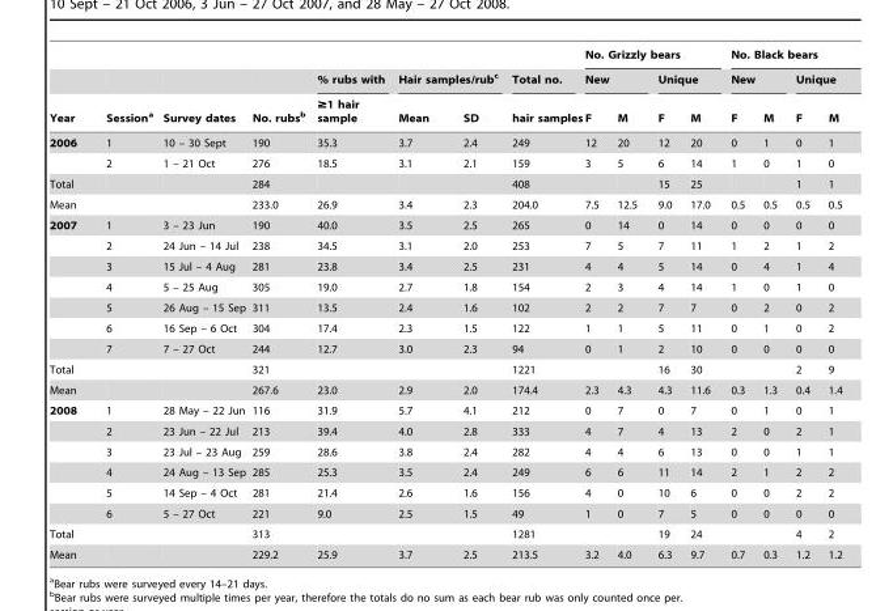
<table><thead><tr><td rowspan="3">Year</td><td rowspan="3">Session<sup>a</sup></td><td rowspan="3">Survey dates</td><td rowspan="3">No. rubs<sup>b</sup></td><td rowspan="3">% rubs with ≥1 hair sample</td><td></td><td></td><td rowspan="3">Total no. hair samples</td><td colspan="4">No. Grizzly bears</td><td colspan="4">No. Black bears</td></tr><tr><td colspan="2">Hair samples/rub<sup>c</sup></td><td colspan="2">New</td><td colspan="2">Unique</td><td colspan="2">New</td><td colspan="2">Unique</td></tr><tr><td>Mean</td><td>SD</td><td>F</td><td>M</td><td>F</td><td>M</td><td>F</td><td>M</td><td>F</td><td>M</td></tr></thead><tbody><tr><td rowspan="2">2006</td><td>1</td><td>10 – 30 Sept</td><td>190</td><td>35.3</td><td>3.7</td><td>2.4</td><td>249</td><td>12</td><td>20</td><td>12</td><td>20</td><td>0</td><td>1</td><td>0</td><td>1</td></tr><tr><td>2</td><td>1 – 21 Oct</td><td>276</td><td>18.5</td><td>3.1</td><td>2.1</td><td>159</td><td>3</td><td>5</td><td>6</td><td>14</td><td>1</td><td>0</td><td>1</td><td>0</td></tr><tr><td>Total</td><td></td><td></td><td>284</td><td></td><td></td><td></td><td>408</td><td></td><td></td><td>15</td><td>25</td><td></td><td></td><td>1</td><td>1</td></tr><tr><td>Mean</td><td></td><td></td><td>233.0</td><td>26.9</td><td>3.4</td><td>2.3</td><td>204.0</td><td>7.5</td><td>12.5</td><td>9.0</td><td>17.0</td><td>0.5</td><td>0.5</td><td>0.5</td><td>0.5</td></tr><tr><td rowspan="7">2007</td><td>1</td><td>3 – 23 Jun</td><td>190</td><td>40.0</td><td>3.5</td><td>2.5</td><td>265</td><td>0</td><td>14</td><td>0</td><td>14</td><td>0</td><td>0</td><td>0</td><td>0</td></tr><tr><td>2</td><td>24 Jun – 14 Jul</td><td>238</td><td>34.5</td><td>3.1</td><td>2.0</td><td>253</td><td>7</td><td>5</td><td>7</td><td>11</td><td>1</td><td>2</td><td>1</td><td>2</td></tr><tr><td>3</td><td>15 Jul – 4 Aug</td><td>281</td><td>23.8</td><td>3.4</td><td>2.5</td><td>231</td><td>4</td><td>4</td><td>5</td><td>14</td><td>0</td><td>4</td><td>1</td><td>4</td></tr><tr><td>4</td><td>5 – 25 Aug</td><td>305</td><td>19.0</td><td>2.7</td><td>1.8</td><td>154</td><td>2</td><td>3</td><td>4</td><td>14</td><td>1</td><td>0</td><td>1</td><td>0</td></tr><tr><td>5</td><td>26 Aug – 15 Sep</td><td>311</td><td>13.5</td><td>2.4</td><td>1.6</td><td>102</td><td>2</td><td>2</td><td>7</td><td>7</td><td>0</td><td>2</td><td>0</td><td>2</td></tr><tr><td>6</td><td>16 Sep – 6 Oct</td><td>304</td><td>17.4</td><td>2.3</td><td>1.5</td><td>122</td><td>1</td><td>1</td><td>5</td><td>11</td><td>0</td><td>1</td><td>0</td><td>2</td></tr><tr><td>7</td><td>7 – 27 Oct</td><td>244</td><td>12.7</td><td>3.0</td><td>2.3</td><td>94</td><td>0</td><td>1</td><td>2</td><td>10</td><td>0</td><td>0</td><td>0</td><td>0</td></tr><tr><td>Total</td><td></td><td></td><td>321</td><td></td><td></td><td></td><td>1221</td><td></td><td></td><td>16</td><td>30</td><td></td><td></td><td>2</td><td>9</td></tr><tr><td>Mean</td><td></td><td></td><td>267.6</td><td>23.0</td><td>2.9</td><td>2.0</td><td>174.4</td><td>2.3</td><td>4.3</td><td>4.3</td><td>11.6</td><td>0.3</td><td>1.3</td><td>0.4</td><td>1.4</td></tr><tr><td rowspan="6">2008</td><td>1</td><td>28 May – 22 Jun</td><td>116</td><td>31.9</td><td>5.7</td><td>4.1</td><td>212</td><td>0</td><td>7</td><td>0</td><td>7</td><td>0</td><td>1</td><td>0</td><td>1</td></tr><tr><td>2</td><td>23 Jun – 22 Jul</td><td>213</td><td>39.4</td><td>4.0</td><td>2.8</td><td>333</td><td>4</td><td>7</td><td>4</td><td>13</td><td>2</td><td>0</td><td>2</td><td>1</td></tr><tr><td>3</td><td>23 Jul – 23 Aug</td><td>259</td><td>28.6</td><td>3.8</td><td>2.4</td><td>282</td><td>4</td><td>4</td><td>6</td><td>13</td><td>0</td><td>0</td><td>1</td><td>1</td></tr><tr><td>4</td><td>24 Aug – 13 Sep</td><td>285</td><td>25.3</td><td>3.5</td><td>2.4</td><td>249</td><td>6</td><td>6</td><td>11</td><td>14</td><td>2</td><td>1</td><td>2</td><td>2</td></tr><tr><td>5</td><td>14 Sep – 4 Oct</td><td>281</td><td>21.4</td><td>2.6</td><td>1.6</td><td>156</td><td>4</td><td>0</td><td>10</td><td>6</td><td>0</td><td>0</td><td>2</td><td>2</td></tr><tr><td>6</td><td>5 – 27 Oct</td><td>221</td><td>9.0</td><td>2.5</td><td>1.5</td><td>49</td><td>1</td><td>0</td><td>7</td><td>5</td><td>0</td><td>0</td><td>0</td><td>0</td></tr><tr><td>Total</td><td></td><td></td><td>313</td><td></td><td></td><td></td><td>1281</td><td></td><td></td><td>19</td><td>24</td><td></td><td></td><td>4</td><td>2</td></tr><tr><td>Mean</td><td></td><td></td><td>229.2</td><td>25.9</td><td>3.7</td><td>2.5</td><td>213.5</td><td>3.2</td><td>4.0</td><td>6.3</td><td>9.7</td><td>0.7</td><td>0.3</td><td>1.2</td><td>1.2</td></tr></tbody></table>